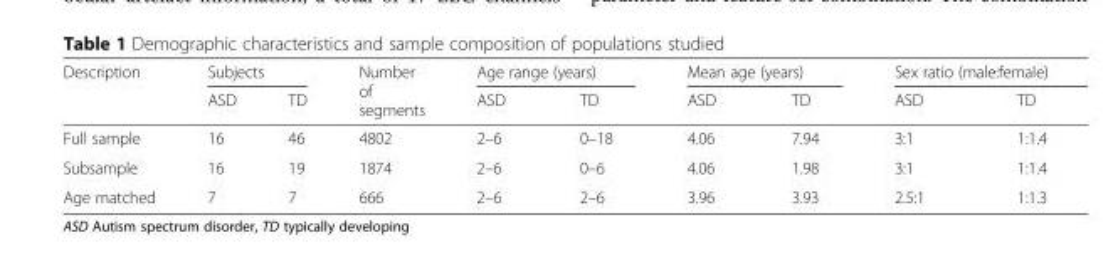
<table><thead><tr><td rowspan="2">Description</td><td colspan="2">Subjects</td><td rowspan="2">Number of segments</td><td colspan="2">Age range (years)</td><td colspan="2">Mean age (years)</td><td colspan="2">Sex ratio (male:female)</td></tr><tr><td>ASD</td><td>TD</td><td>ASD</td><td>TD</td><td>ASD</td><td>TD</td><td>ASD</td><td>TD</td></tr></thead><tbody><tr><td>Full sample</td><td>16</td><td>46</td><td>4802</td><td>2–6</td><td>0–18</td><td>4.06</td><td>7.94</td><td>3:1</td><td>1:1.4</td></tr><tr><td>Subsample</td><td>16</td><td>19</td><td>1874</td><td>2–6</td><td>0–6</td><td>4.06</td><td>1.98</td><td>3:1</td><td>1:1.4</td></tr><tr><td>Age matched</td><td>7</td><td>7</td><td>666</td><td>2–6</td><td>2–6</td><td>3.96</td><td>3.93</td><td>2.5:1</td><td>1:1.3</td></tr></tbody></table>